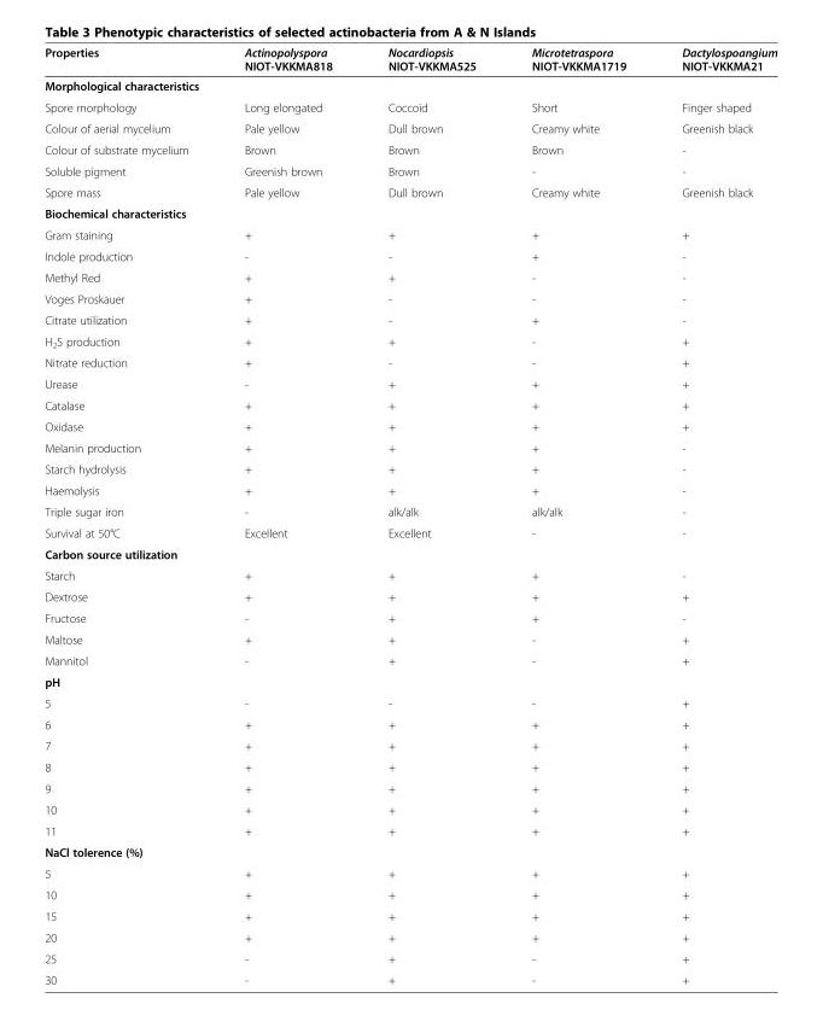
<table><thead><tr><td>Properties</td><td>Actinopolyspora NIOT-VKKMA818</td><td>Nocardiopsis NIOT-VKKMA525</td><td>Microtetraspora NIOT-VKKMA1719</td><td>Dactylospoangium NIOT-VKKMA21</td></tr></thead><tbody><tr><td colspan="5">Morphological characteristics</td></tr><tr><td>Spore morphology</td><td>Long elongated</td><td>Coccoid</td><td>Short</td><td>Finger shaped</td></tr><tr><td>Colour of aerial mycelium</td><td>Pale yellow</td><td>Dull brown</td><td>Creamy white</td><td>Greenish black</td></tr><tr><td>Colour of substrate mycelium</td><td>Brown</td><td>Brown</td><td>Brown</td><td>-</td></tr><tr><td>Soluble pigment</td><td>Greenish brown</td><td>Brown</td><td>-</td><td>-</td></tr><tr><td>Spore mass</td><td>Pale yellow</td><td>Dull brown</td><td>Creamy white</td><td>Greenish black</td></tr><tr><td colspan="5">Biochemical characteristics</td></tr><tr><td>Gram staining</td><td>+</td><td>+</td><td>+</td><td>+</td></tr><tr><td>Indole production</td><td>-</td><td>-</td><td>+</td><td>-</td></tr><tr><td>Methyl Red</td><td>+</td><td>+</td><td>-</td><td>-</td></tr><tr><td>Voges Proskauer</td><td>+</td><td>-</td><td>-</td><td>-</td></tr><tr><td>Citrate utilization</td><td>+</td><td>-</td><td>+</td><td>-</td></tr><tr><td>H<sub>2</sub>S production</td><td>+</td><td>+</td><td>-</td><td>+</td></tr><tr><td>Nitrate reduction</td><td>+</td><td>-</td><td>-</td><td>+</td></tr><tr><td>Urease</td><td>-</td><td>+</td><td>+</td><td>+</td></tr><tr><td>Catalase</td><td>+</td><td>+</td><td>+</td><td>+</td></tr><tr><td>Oxidase</td><td>+</td><td>+</td><td>+</td><td>+</td></tr><tr><td>Melanin production</td><td>+</td><td>+</td><td>+</td><td>-</td></tr><tr><td>Starch hydrolysis</td><td>+</td><td>+</td><td>+</td><td>-</td></tr><tr><td>Haemolysis</td><td>+</td><td>+</td><td>+</td><td>-</td></tr><tr><td>Triple sugar iron</td><td>-</td><td>alk/alk</td><td>alk/alk</td><td>-</td></tr><tr><td>Survival at 50°C</td><td>Excellent</td><td>Excellent</td><td>-</td><td>-</td></tr><tr><td colspan="5">Carbon source utilization</td></tr><tr><td>Starch</td><td>+</td><td>+</td><td>+</td><td>-</td></tr><tr><td>Dextrose</td><td>+</td><td>+</td><td>+</td><td>+</td></tr><tr><td>Fructose</td><td>-</td><td>+</td><td>+</td><td>-</td></tr><tr><td>Maltose</td><td>+</td><td>+</td><td>-</td><td>+</td></tr><tr><td>Mannitol</td><td>-</td><td>+</td><td>-</td><td>+</td></tr><tr><td colspan="5">pH</td></tr><tr><td>5</td><td>-</td><td>-</td><td>-</td><td>+</td></tr><tr><td>6</td><td>+</td><td>+</td><td>+</td><td>+</td></tr><tr><td>7</td><td>+</td><td>+</td><td>+</td><td>+</td></tr><tr><td>8</td><td>+</td><td>+</td><td>+</td><td>+</td></tr><tr><td>9</td><td>+</td><td>+</td><td>+</td><td>+</td></tr><tr><td>10</td><td>+</td><td>+</td><td>+</td><td>+</td></tr><tr><td>11</td><td>+</td><td>+</td><td>+</td><td>+</td></tr><tr><td colspan="5">NaCl tolerence (%)</td></tr><tr><td>5</td><td>+</td><td>+</td><td>+</td><td>+</td></tr><tr><td>10</td><td>+</td><td>+</td><td>+</td><td>+</td></tr><tr><td>15</td><td>+</td><td>+</td><td>+</td><td>+</td></tr><tr><td>20</td><td>+</td><td>+</td><td>+</td><td>+</td></tr><tr><td>25</td><td>-</td><td>+</td><td>-</td><td>+</td></tr><tr><td>30</td><td>-</td><td>+</td><td>-</td><td>+</td></tr></tbody></table>